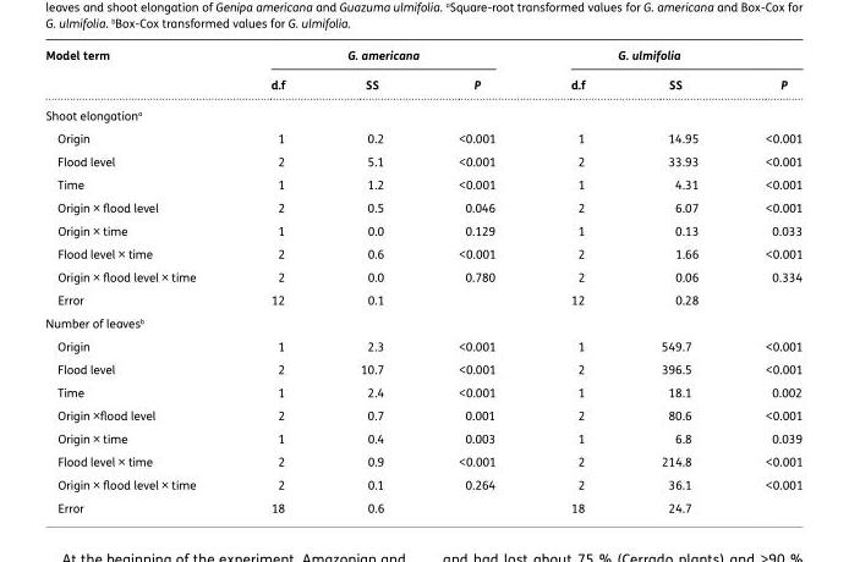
<table><thead><tr><td rowspan="2">Model term</td><td colspan="3">G. americana</td><td colspan="3">G. ulmifolia</td></tr><tr><td>d.f</td><td>SS</td><td>P</td><td>d.f</td><td>SS</td><td>P</td></tr></thead><tbody><tr><td colspan="7">Shoot elongation<sup>a</sup></td></tr><tr><td>Origin</td><td>1</td><td>0.2</td><td>&lt;0.001</td><td>1</td><td>14.95</td><td>&lt;0.001</td></tr><tr><td>Flood level</td><td>2</td><td>5.1</td><td>&lt;0.001</td><td>2</td><td>33.93</td><td>&lt;0.001</td></tr><tr><td>Time</td><td>1</td><td>1.2</td><td>&lt;0.001</td><td>1</td><td>4.31</td><td>&lt;0.001</td></tr><tr><td>Origin × flood level</td><td>2</td><td>0.5</td><td>0.046</td><td>2</td><td>6.07</td><td>&lt;0.001</td></tr><tr><td>Origin × time</td><td>1</td><td>0.0</td><td>0.129</td><td>1</td><td>0.13</td><td>0.033</td></tr><tr><td>Flood level × time</td><td>2</td><td>0.6</td><td>&lt;0.001</td><td>2</td><td>1.66</td><td>&lt;0.001</td></tr><tr><td>Origin × flood level × time</td><td>2</td><td>0.0</td><td>0.780</td><td>2</td><td>0.06</td><td>0.334</td></tr><tr><td>Error</td><td>12</td><td>0.1</td><td></td><td>12</td><td>0.28</td><td></td></tr><tr><td colspan="7">Number of leaves<sup>b</sup></td></tr><tr><td>Origin</td><td>1</td><td>2.3</td><td>&lt;0.001</td><td>1</td><td>549.7</td><td>&lt;0.001</td></tr><tr><td>Flood level</td><td>2</td><td>10.7</td><td>&lt;0.001</td><td>2</td><td>396.5</td><td>&lt;0.001</td></tr><tr><td>Time</td><td>1</td><td>2.4</td><td>&lt;0.001</td><td>1</td><td>18.1</td><td>0.002</td></tr><tr><td>Origin ×flood level</td><td>2</td><td>0.7</td><td>0.001</td><td>2</td><td>80.6</td><td>&lt;0.001</td></tr><tr><td>Origin × time</td><td>1</td><td>0.4</td><td>0.003</td><td>1</td><td>6.8</td><td>0.039</td></tr><tr><td>Flood level × time</td><td>2</td><td>0.9</td><td>&lt;0.001</td><td>2</td><td>214.8</td><td>&lt;0.001</td></tr><tr><td>Origin × flood level × time</td><td>2</td><td>0.1</td><td>0.264</td><td>2</td><td>36.1</td><td>&lt;0.001</td></tr><tr><td>Error</td><td>18</td><td>0.6</td><td></td><td>18</td><td>24.7</td><td></td></tr></tbody></table>